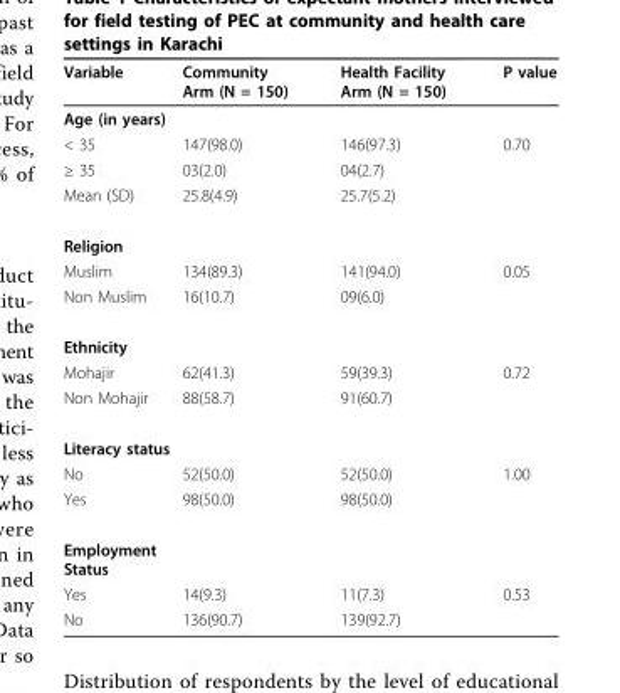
<table><thead><tr><td>Variable</td><td>Community Arm (N = 150)</td><td>Health Facility Arm (N = 150)</td><td>P value</td></tr></thead><tbody><tr><td colspan="4">Age (in years)</td></tr><tr><td>&lt; 35</td><td>147(98.0)</td><td>146(97.3)</td><td>0.70</td></tr><tr><td>≥ 35</td><td>03(2.0)</td><td>04(2.7)</td><td></td></tr><tr><td>Mean (SD)</td><td>25.8(4.9)</td><td>25.7(5.2)</td><td></td></tr><tr><td colspan="4">Religion</td></tr><tr><td>Muslim</td><td>134(89.3)</td><td>141(94.0)</td><td>0.05</td></tr><tr><td>Non Muslim</td><td>16(10.7)</td><td>09(6.0)</td><td></td></tr><tr><td colspan="4">Ethnicity</td></tr><tr><td>Mohajir</td><td>62(41.3)</td><td>59(39.3)</td><td>0.72</td></tr><tr><td>Non Mohajir</td><td>88(58.7)</td><td>91(60.7)</td><td></td></tr><tr><td colspan="4">Literacy status</td></tr><tr><td>No</td><td>52(50.0)</td><td>52(50.0)</td><td>1.00</td></tr><tr><td>Yes</td><td>98(50.0)</td><td>98(50.0)</td><td></td></tr><tr><td colspan="4">Employment Status</td></tr><tr><td>Yes</td><td>14(9.3)</td><td>11(7.3)</td><td>0.53</td></tr><tr><td>No</td><td>136(90.7)</td><td>139(92.7)</td><td></td></tr></tbody></table>